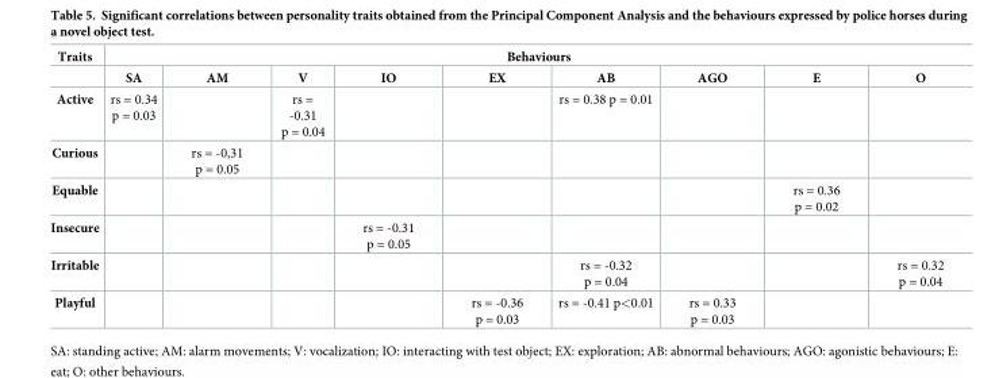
<table><thead><tr><td rowspan="2">Traits</td><td colspan="9">Behaviours</td></tr><tr><td>SA</td><td>AM</td><td>V</td><td>IO</td><td>EX</td><td>AB</td><td>AGO</td><td>E</td><td>O</td></tr></thead><tbody><tr><td>Active</td><td>rs = 0.34 p = 0.03</td><td></td><td>rs = -0.31 p = 0.04</td><td></td><td></td><td>rs = 0.38 p = 0.01</td><td></td><td></td><td></td></tr><tr><td>Curious</td><td></td><td>rs = -0,31 p = 0.05</td><td></td><td></td><td></td><td></td><td></td><td></td><td></td></tr><tr><td>Equable</td><td></td><td></td><td></td><td></td><td></td><td></td><td></td><td>rs = 0.36 p = 0.02</td><td></td></tr><tr><td>Insecure</td><td></td><td></td><td></td><td>rs = -0.31 p = 0.05</td><td></td><td></td><td></td><td></td><td></td></tr><tr><td>Irritable</td><td></td><td></td><td></td><td></td><td></td><td>rs = -0.32 p = 0.04</td><td></td><td></td><td>rs = 0.32 p = 0.04</td></tr><tr><td>Playful</td><td></td><td></td><td></td><td></td><td>rs = -0.36 p = 0.03</td><td>rs = -0.41 p&lt;0.01</td><td>rs = 0.33 p = 0.03</td><td></td><td></td></tr></tbody></table>